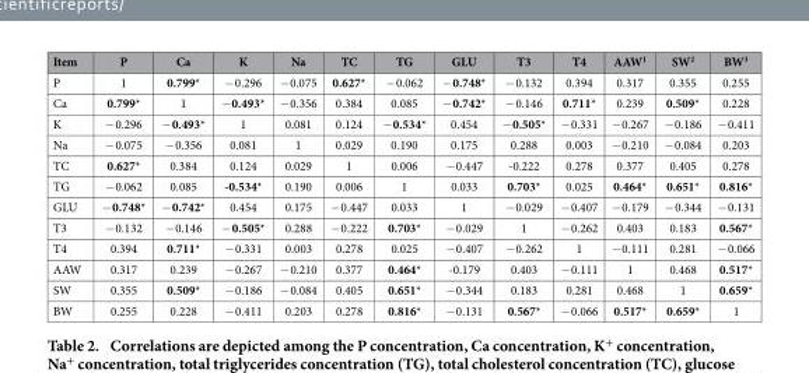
<table><thead><tr><td>Item</td><td>P</td><td>Ca</td><td>K</td><td>Na</td><td>TC</td><td>TG</td><td>GLU</td><td>T3</td><td>T4</td><td>AAW<sup>1</sup></td><td>SW<sup>2</sup></td><td>BW<sup>3</sup></td></tr></thead><tbody><tr><td>P</td><td>1</td><td>0.799*</td><td>− 0.296</td><td>− 0.075</td><td>0.627*</td><td>− 0.062</td><td>− 0.748*</td><td>− 0.132</td><td>0.394</td><td>0.317</td><td>0.355</td><td>0.255</td></tr><tr><td>Ca</td><td>0.799*</td><td>1</td><td>− 0.493*</td><td>− 0.356</td><td>0.384</td><td>0.085</td><td>− 0.742*</td><td>− 0.146</td><td>0.711*</td><td>0.239</td><td>0.509*</td><td>0.228</td></tr><tr><td>K</td><td>− 0.296</td><td>− 0.493*</td><td>1</td><td>0.081</td><td>0.124</td><td>− 0.534*</td><td>0.454</td><td>− 0.505*</td><td>− 0.331</td><td>− 0.267</td><td>− 0.186</td><td>− 0.411</td></tr><tr><td>Na</td><td>− 0.075</td><td>− 0.356</td><td>0.081</td><td>1</td><td>0.029</td><td>0.190</td><td>0.175</td><td>0.288</td><td>0.003</td><td>− 0.210</td><td>− 0.084</td><td>0.203</td></tr><tr><td>TC</td><td>0.627*</td><td>0.384</td><td>0.124</td><td>0.029</td><td>1</td><td>0.006</td><td>− 0.447</td><td>-0.222</td><td>0.278</td><td>0.377</td><td>0.405</td><td>0.278</td></tr><tr><td>TG</td><td>− 0.062</td><td>0.085</td><td>-0.534*</td><td>0.190</td><td>0.006</td><td>1</td><td>0.033</td><td>0.703*</td><td>0.025</td><td>0.464*</td><td>0.651*</td><td>0.816*</td></tr><tr><td>GLU</td><td>− 0.748*</td><td>− 0.742*</td><td>0.454</td><td>0.175</td><td>− 0.447</td><td>0.033</td><td>1</td><td>− 0.029</td><td>− 0.407</td><td>− 0.179</td><td>− 0.344</td><td>− 0.131</td></tr><tr><td>T3</td><td>− 0.132</td><td>− 0.146</td><td>− 0.505*</td><td>0.288</td><td>− 0.222</td><td>0.703*</td><td>− 0.029</td><td>1</td><td>− 0.262</td><td>0.403</td><td>0.183</td><td>0.567*</td></tr><tr><td>T4</td><td>0.394</td><td>0.711*</td><td>− 0.331</td><td>0.003</td><td>0.278</td><td>0.025</td><td>− 0.407</td><td>− 0.262</td><td>1</td><td>− 0.111</td><td>0.281</td><td>− 0.066</td></tr><tr><td>AAW</td><td>0.317</td><td>0.239</td><td>− 0.267</td><td>− 0.210</td><td>0.377</td><td>0.464*</td><td>-0.179</td><td>0.403</td><td>− 0.111</td><td>1</td><td>0.468</td><td>0.517*</td></tr><tr><td>SW</td><td>0.355</td><td>0.509*</td><td>− 0.186</td><td>− 0.084</td><td>0.405</td><td>0.651*</td><td>− 0.344</td><td>0.183</td><td>0.281</td><td>0.468</td><td>1</td><td>0.659*</td></tr><tr><td>BW</td><td>0.255</td><td>0.228</td><td>− 0.411</td><td>0.203</td><td>0.278</td><td>0.816*</td><td>− 0.131</td><td>0.567*</td><td>− 0.066</td><td>0.517*</td><td>0.659*</td><td>1</td></tr></tbody></table>